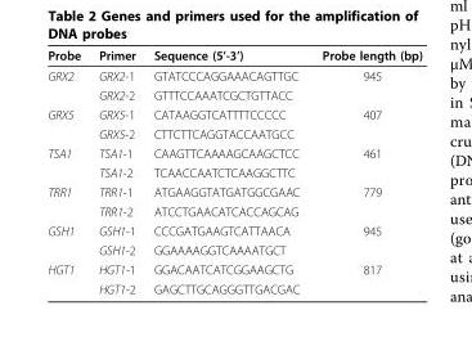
<table><thead><tr><td>Probe</td><td>Primer</td><td>Sequence (5’-3’)</td><td>Probe length (bp)</td></tr></thead><tbody><tr><td rowspan="2">GRX2</td><td>GRX2-1</td><td>GTATCCCAGGAAACAGTTGC</td><td>945</td></tr><tr><td>GRX2-2</td><td>GTTTCCAAATCGCTGTTACC</td><td></td></tr><tr><td rowspan="2">GRX5</td><td>GRX5-1</td><td>CATAAGGTCATTTTCCCCC</td><td>407</td></tr><tr><td>GRX5-2</td><td>CTTCTTCAGGTACCAATGCC</td><td></td></tr><tr><td rowspan="2">TSA1</td><td>TSA1-1</td><td>CAAGTTCAAAAGCAAGCTCC</td><td>461</td></tr><tr><td>TSA1-2</td><td>TCAACCAATCTCAAGGCTTC</td><td></td></tr><tr><td rowspan="2">TRR1</td><td>TRR1-1</td><td>ATGAAGGTATGATGGCGAAC</td><td>779</td></tr><tr><td>TRR1-2</td><td>ATCCTGAACATCACCAGCAG</td><td></td></tr><tr><td rowspan="2">GSH1</td><td>GSH1-1</td><td>CCCGATGAAGTCATTAACA</td><td>945</td></tr><tr><td>GSH1-2</td><td>GGAAAAGGTCAAAATGCT</td><td></td></tr><tr><td rowspan="2">HGT1</td><td>HGT1-1</td><td>GGACAATCATCGGAAGCTG</td><td>817</td></tr><tr><td>HGT1-2</td><td>GAGCTTGCAGGGTTGACGAC</td><td></td></tr></tbody></table>